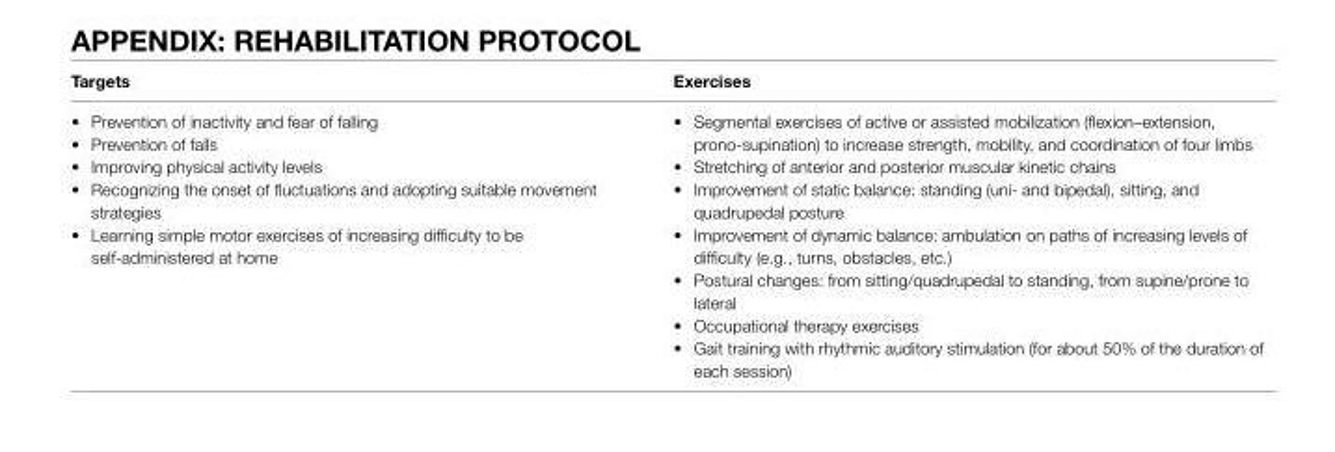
<table><thead><tr><td>Targets</td><td>Exercises</td></tr></thead><tbody><tr><td>• Prevention of inactivity and fear of falling • Prevention of falls • Improving physical activity levels • Recognizing the onset of fluctuations and adopting suitable movement strategies • Learning simple motor exercises of increasing difficulty to be self-administered at home</td><td>• Segmental exercises of active or assisted mobilization (flexion–extension, prono-supination) to increase strength, mobility, and coordination of four limbs • Stretching of anterior and posterior muscular kinetic chains • Improvement of static balance: standing (uni- and bipedal), sitting, and quadrupedal posture • Improvement of dynamic balance: ambulation on paths of increasing levels of difficulty (e.g., turns, obstacles, etc.) • Postural changes: from sitting/quadrupedal to standing, from supine/prone to lateral • Occupational therapy exercises • Gait training with rhythmic auditory stimulation (for about 50% of the duration of each session)</td></tr></tbody></table>